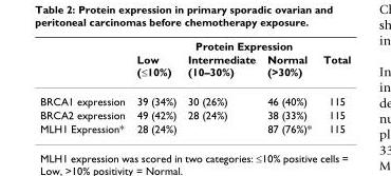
<table><thead><tr><td rowspan="2"></td><td colspan="4">Protein Expression</td></tr><tr><td>Low (≤10%)</td><td>Intermediate (10–30%)</td><td>Normal (&gt;30%)</td><td>Total</td></tr></thead><tbody><tr><td>BRCA1 expression</td><td>39 (34%)</td><td>30 (26%)</td><td>46 (40%)</td><td>115</td></tr><tr><td>BRCA2 expression</td><td>49 (42%)</td><td>28 (24%)</td><td>38 (33%)</td><td>115</td></tr><tr><td>MLH1 Expression*</td><td>28 (24%)</td><td></td><td>87 (76%)*</td><td>115</td></tr></tbody></table>